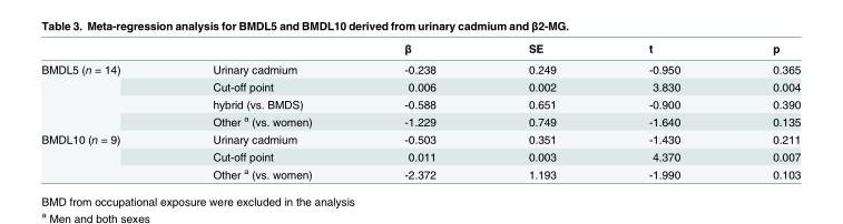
<table><thead><tr><td></td><td></td><td>β</td><td>SE</td><td>t</td><td>p</td></tr></thead><tbody><tr><td rowspan="4">BMDL5 (n = 14)</td><td>Urinary cadmium</td><td>-0.238</td><td>0.249</td><td>-0.950</td><td>0.365</td></tr><tr><td>Cut-off point</td><td>0.006</td><td>0.002</td><td>3.830</td><td>0.004</td></tr><tr><td>hybrid (vs. BMDS)</td><td>-0.588</td><td>0.651</td><td>-0.900</td><td>0.390</td></tr><tr><td>Other <sup>a</sup> (vs. women)</td><td>-1.229</td><td>0.749</td><td>-1.640</td><td>0.135</td></tr><tr><td rowspan="3">BMDL10 (n = 9)</td><td>Urinary cadmium</td><td>-0.503</td><td>0.351</td><td>-1.430</td><td>0.211</td></tr><tr><td>Cut-off point</td><td>0.011</td><td>0.003</td><td>4.370</td><td>0.007</td></tr><tr><td>Other <sup>a</sup> (vs. women)</td><td>-2.372</td><td>1.193</td><td>-1.990</td><td>0.103</td></tr></tbody></table>